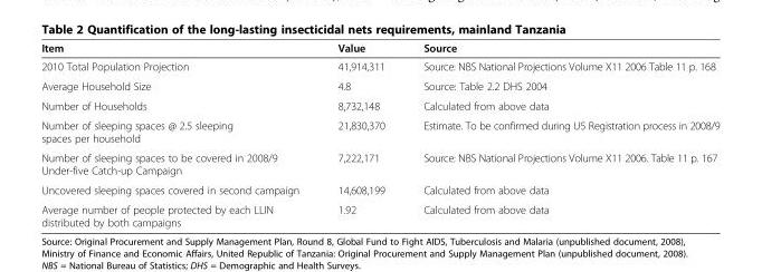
<table><thead><tr><td>Item</td><td>Value</td><td>Source</td></tr></thead><tbody><tr><td>2010 Total Population Projection</td><td>41,914,311</td><td>Source: NBS National Projections Volume X11 2006 Table 11 p. 168</td></tr><tr><td>Average Household Size</td><td>4.8</td><td>Source: Table 2.2 DHS 2004</td></tr><tr><td>Number of Households</td><td>8,732,148</td><td>Calculated from above data</td></tr><tr><td>Number of sleeping spaces @ 2.5 sleeping spaces per household</td><td>21,830,370</td><td>Estimate. To be confirmed during U5 Registration process in 2008/9</td></tr><tr><td>Number of sleeping spaces to be covered in 2008/9 Under-five Catch-up Campaign</td><td>7,222,171</td><td>Source: NBS National Projections Volume X11 2006. Table 11 p. 167</td></tr><tr><td>Uncovered sleeping spaces covered in second campaign</td><td>14,608,199</td><td>Calculated from above data</td></tr><tr><td>Average number of people protected by each LLIN distributed by both campaigns</td><td>1.92</td><td>Calculated from above data</td></tr></tbody></table>